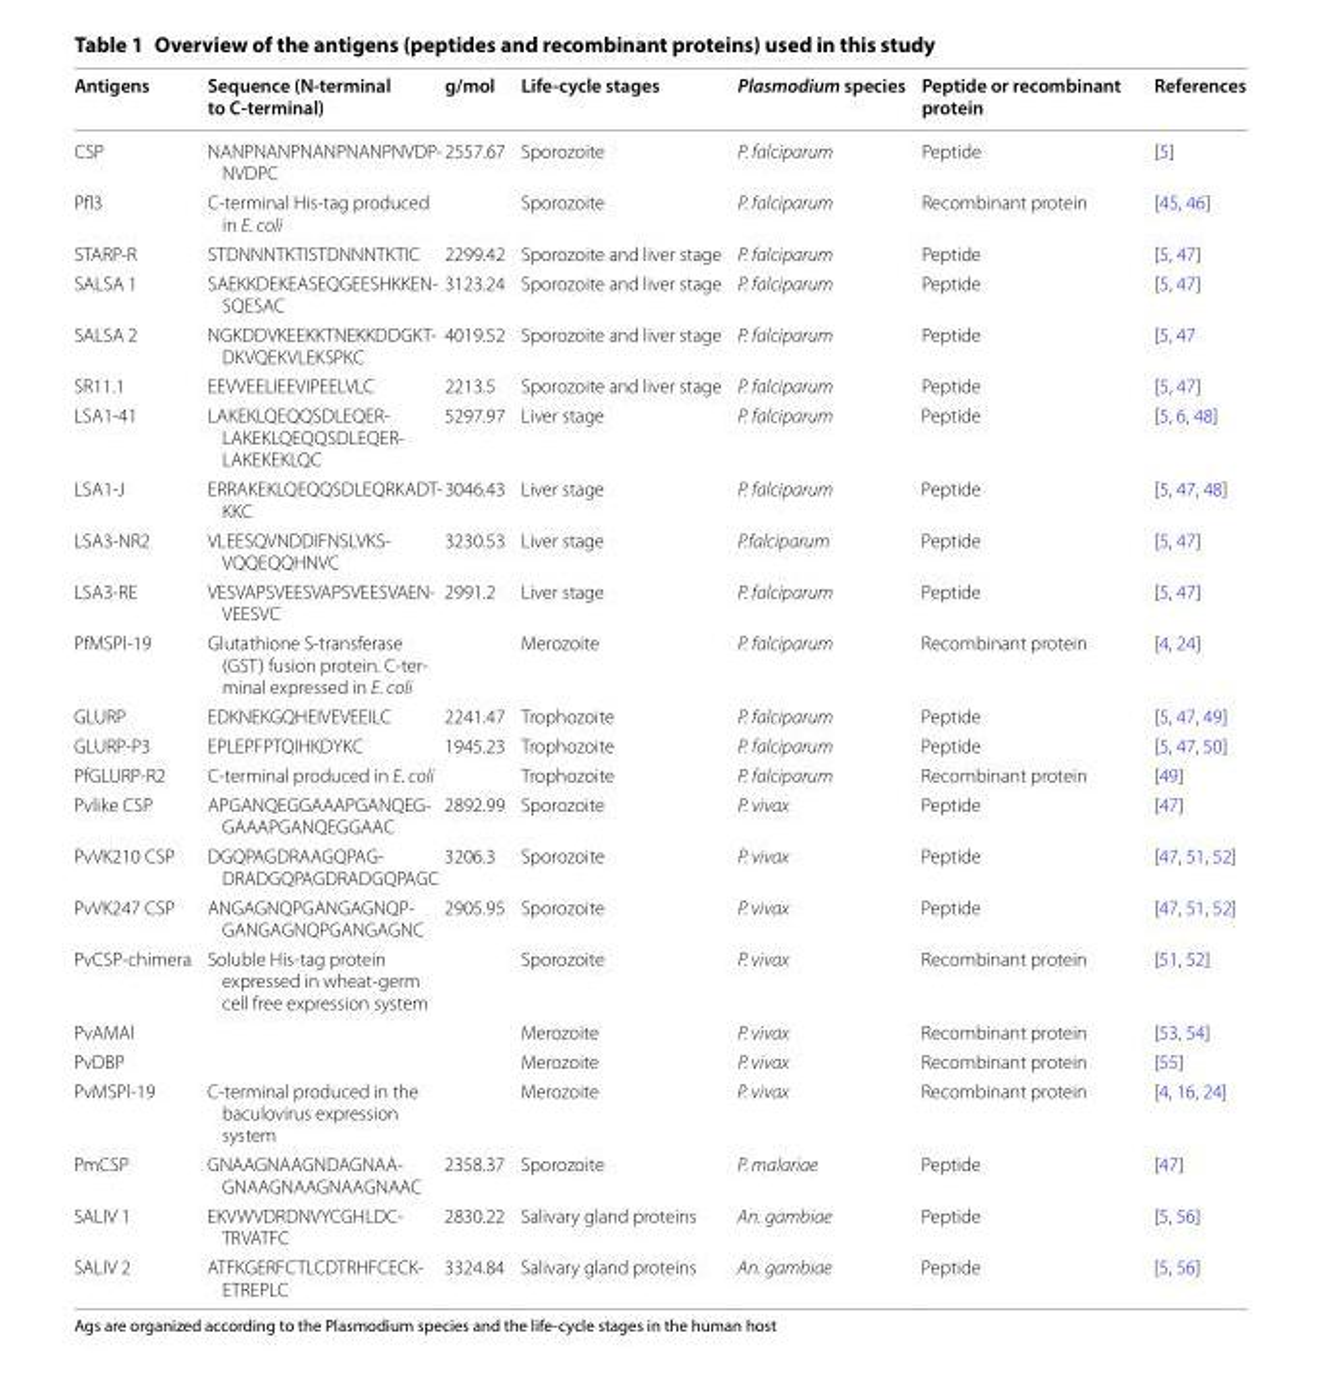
<table><thead><tr><td>Antigens</td><td>Sequence (N‑terminal to C‑terminal)</td><td>g/mol</td><td>Life‑cycle stages</td><td>Plasmodium species</td><td>Peptide or recombinant protein</td><td>References</td></tr></thead><tbody><tr><td>CSP</td><td>NANPNANPNANPNANPNVDP‑ NVDPC</td><td>2557.67</td><td>Sporozoite</td><td>P. falciparum</td><td>Peptide</td><td>[5]</td></tr><tr><td>Pfl3</td><td>C‑terminal His‑tag produced in E. coli</td><td></td><td>Sporozoite</td><td>P. falciparum</td><td>Recombinant protein</td><td>[45, 46]</td></tr><tr><td>STARP‑R</td><td>STDNNNTKTISTDNNNTKTIC</td><td>2299.42</td><td>Sporozoite and liver stage</td><td>P. falciparum</td><td>Peptide</td><td>[5, 47]</td></tr><tr><td>SALSA 1</td><td>SAEKKDEKEASEQGEESHKKEN‑ SQESAC</td><td>3123.24</td><td>Sporozoite and liver stage</td><td>P. falciparum</td><td>Peptide</td><td>[5, 47]</td></tr><tr><td>SALSA 2</td><td>NGKDDVKEEKKTNEKKDDGKT‑ DKVQEKVLEKSPKC</td><td>4019.52</td><td>Sporozoite and liver stage</td><td>P. falciparum</td><td>Peptide</td><td>[5, 47</td></tr><tr><td>SR11.1</td><td>EEVVEELIEEVIPEELVLC</td><td>2213.5</td><td>Sporozoite and liver stage</td><td>P. falciparum</td><td>Peptide</td><td>[5, 47]</td></tr><tr><td>LSA1‑41</td><td>LAKEKLQEQQSDLEQER‑ LAKEKLQEQQSDLEQER‑ LAKEKEKLQC</td><td>5297.97</td><td>Liver stage</td><td>P. falciparum</td><td>Peptide</td><td>[5, 6, 48]</td></tr><tr><td>LSA1‑J</td><td>ERRAKEKLQEQQSDLEQRKADT‑ KKC</td><td>3046.43</td><td>Liver stage</td><td>P. falciparum</td><td>Peptide</td><td>[5, 47, 48]</td></tr><tr><td>LSA3‑NR2</td><td>VLEESQVNDDIFNSLVKS‑ VQQEQQHNVC</td><td>3230.53</td><td>Liver stage</td><td>P.falciparum</td><td>Peptide</td><td>[5, 47]</td></tr><tr><td>LSA3‑RE</td><td>VESVAPSVEESVAPSVEESVAEN‑ VEESVC</td><td>2991.2</td><td>Liver stage</td><td>P. falciparum</td><td>Peptide</td><td>[5, 47]</td></tr><tr><td>PfMSPl‑19</td><td>Glutathione S‑transferase (GST) fusion protein. C‑ter‑ minal expressed in E. coli</td><td></td><td>Merozoite</td><td>P. falciparum</td><td>Recombinant protein</td><td>[4, 24]</td></tr><tr><td>GLURP</td><td>EDKNEKGQHEIVEVEEILC</td><td>2241.47</td><td>Trophozoite</td><td>P. falciparum</td><td>Peptide</td><td>[5, 47, 49]</td></tr><tr><td>GLURP‑P3</td><td>EPLEPFPTQIHKDYKC</td><td>1945.23</td><td>Trophozoite</td><td>P. falciparum</td><td>Peptide</td><td>[5, 47, 50]</td></tr><tr><td>PfGLURP‑R2</td><td>C‑terminal produced in E. coli</td><td></td><td>Trophozoite</td><td>P. falciparum</td><td>Recombinant protein</td><td>[49]</td></tr><tr><td>Pvlike CSP</td><td>APGANQEGGAAAPGANQEG‑ GAAAPGANQEGGAAC</td><td>2892.99</td><td>Sporozoite</td><td>P. vivax</td><td>Peptide</td><td>[47]</td></tr><tr><td>PvVK210 CSP</td><td>DGQPAGDRAAGQPAG‑ DRADGQPAGDRADGQPAGC</td><td>3206.3</td><td>Sporozoite</td><td>P. vivax</td><td>Peptide</td><td>[47, 51, 52]</td></tr><tr><td>PvVK247 CSP</td><td>ANGAGNQPGANGAGNQP‑ GANGAGNQPGANGAGNC</td><td>2905.95</td><td>Sporozoite</td><td>P. vivax</td><td>Peptide</td><td>[47, 51, 52]</td></tr><tr><td>PvCSP‑chimera</td><td>Soluble His‑tag protein expressed in wheat‑germ cell free expression system</td><td></td><td>Sporozoite</td><td>P. vivax</td><td>Recombinant protein</td><td>[51, 52]</td></tr><tr><td>PvAMAl</td><td></td><td></td><td>Merozoite</td><td>P. vivax</td><td>Recombinant protein</td><td>[53, 54]</td></tr><tr><td>PvDBP</td><td></td><td></td><td>Merozoite</td><td>P. vivax</td><td>Recombinant protein</td><td>[55]</td></tr><tr><td>PvMSPl‑19</td><td>C‑terminal produced in the baculovirus expression system</td><td></td><td>Merozoite</td><td>P. vivax</td><td>Recombinant protein</td><td>[4, 16, 24]</td></tr><tr><td>PmCSP</td><td>GNAAGNAAGNDAGNAA‑ GNAAGNAAGNAAGNAAC</td><td>2358.37</td><td>Sporozoite</td><td>P. malariae</td><td>Peptide</td><td>[47]</td></tr><tr><td>SALIV 1</td><td>EKVWVDRDNVYCGHLDC‑ TRVATFC</td><td>2830.22</td><td>Salivary gland proteins</td><td>An. gambiae</td><td>Peptide</td><td>[5, 56]</td></tr><tr><td>SALIV 2</td><td>ATFKGERFCTLCDTRHFCECK‑ ETREPLC</td><td>3324.84</td><td>Salivary gland proteins</td><td>An. gambiae</td><td>Peptide</td><td>[5, 56]</td></tr></tbody></table>